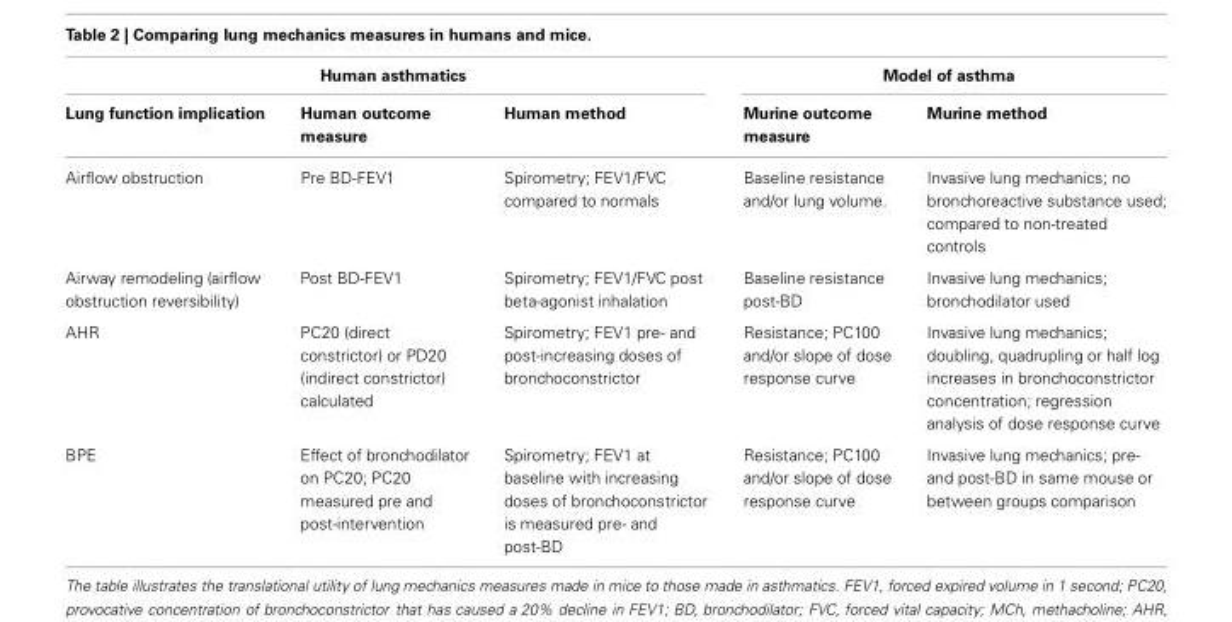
<table><thead><tr><td colspan="3">Human asthmatics</td><td colspan="2">Model of asthma</td></tr><tr><td>Lung function implication</td><td>Human outcome measure</td><td>Human method</td><td>Murine outcome measure</td><td>Murine method</td></tr></thead><tbody><tr><td>Airflow obstruction</td><td>Pre BD-FEV1</td><td>Spirometry; FEV1/FVC compared to normals</td><td>Baseline resistance and/or lung volume.</td><td>Invasive lung mechanics; no bronchoreactive substance used; compared to non-treated controls</td></tr><tr><td>Airway remodeling (airflow obstruction reversibility)</td><td>Post BD-FEV1</td><td>Spirometry; FEV1/FVC post beta-agonist inhalation</td><td>Baseline resistance post-BD</td><td>Invasive lung mechanics; bronchodilator used</td></tr><tr><td>AHR</td><td>PC20 (direct constrictor) or PD20 (indirect constrictor) calculated</td><td>Spirometry; FEV1 pre- and post-increasing doses of bronchoconstrictor</td><td>Resistance; PC100 and/or slope of dose response curve</td><td>Invasive lung mechanics; doubling, quadrupling or half log increases in bronchoconstrictor concentration; regression analysis of dose response curve</td></tr><tr><td>BPE</td><td>Effect of bronchodilator on PC20; PC20 measured pre and post-intervention</td><td>Spirometry; FEV1 at baseline with increasing doses of bronchoconstrictor is measured pre- and post-BD</td><td>Resistance; PC100 and/or slope of dose response curve</td><td>Invasive lung mechanics; pre- and post-BD in same mouse or between groups comparison</td></tr></tbody></table>